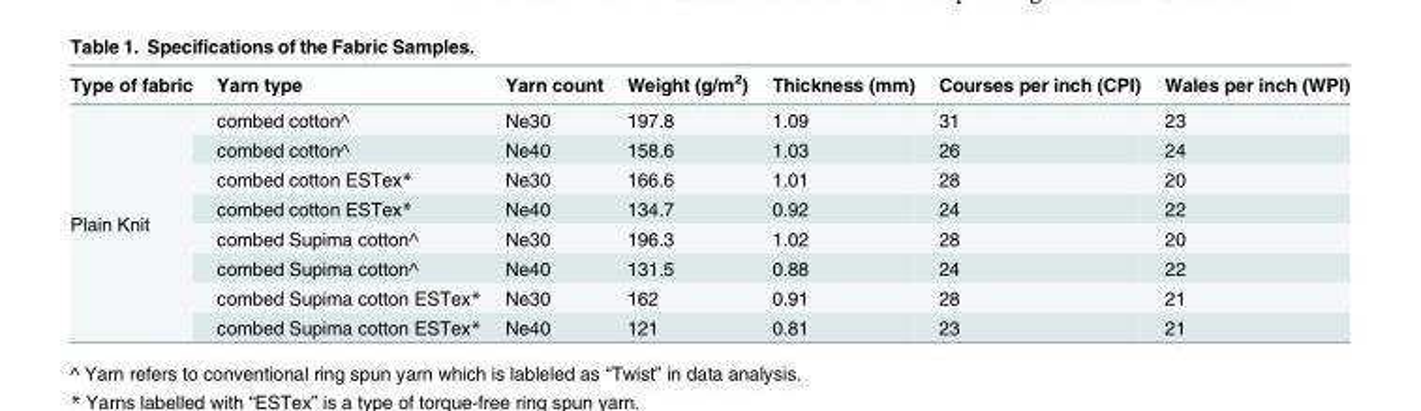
<table><thead><tr><td>Type of fabric</td><td>Yarn type</td><td>Yarn count</td><td>Weight (g/m<sup>2</sup>)</td><td>Thickness (mm)</td><td>Courses per inch (CPI)</td><td>Wales per inch (WPI)</td></tr></thead><tbody><tr><td rowspan="8">Plain Knit</td><td>combed cotton^</td><td>Ne30</td><td>197.8</td><td>1.09</td><td>31</td><td>23</td></tr><tr><td>combed cotton^</td><td>Ne40</td><td>158.6</td><td>1.03</td><td>26</td><td>24</td></tr><tr><td>combed cotton ESTex*</td><td>Ne30</td><td>166.6</td><td>1.01</td><td>28</td><td>20</td></tr><tr><td>combed cotton ESTex*</td><td>Ne40</td><td>134.7</td><td>0.92</td><td>24</td><td>22</td></tr><tr><td>combed Supima cotton^</td><td>Ne30</td><td>196.3</td><td>1.02</td><td>28</td><td>20</td></tr><tr><td>combed Supima cotton^</td><td>Ne40</td><td>131.5</td><td>0.88</td><td>24</td><td>22</td></tr><tr><td>combed Supima cotton ESTex*</td><td>Ne30</td><td>162</td><td>0.91</td><td>28</td><td>21</td></tr><tr><td>combed Supima cotton ESTex*</td><td>Ne40</td><td>121</td><td>0.81</td><td>23</td><td>21</td></tr></tbody></table>